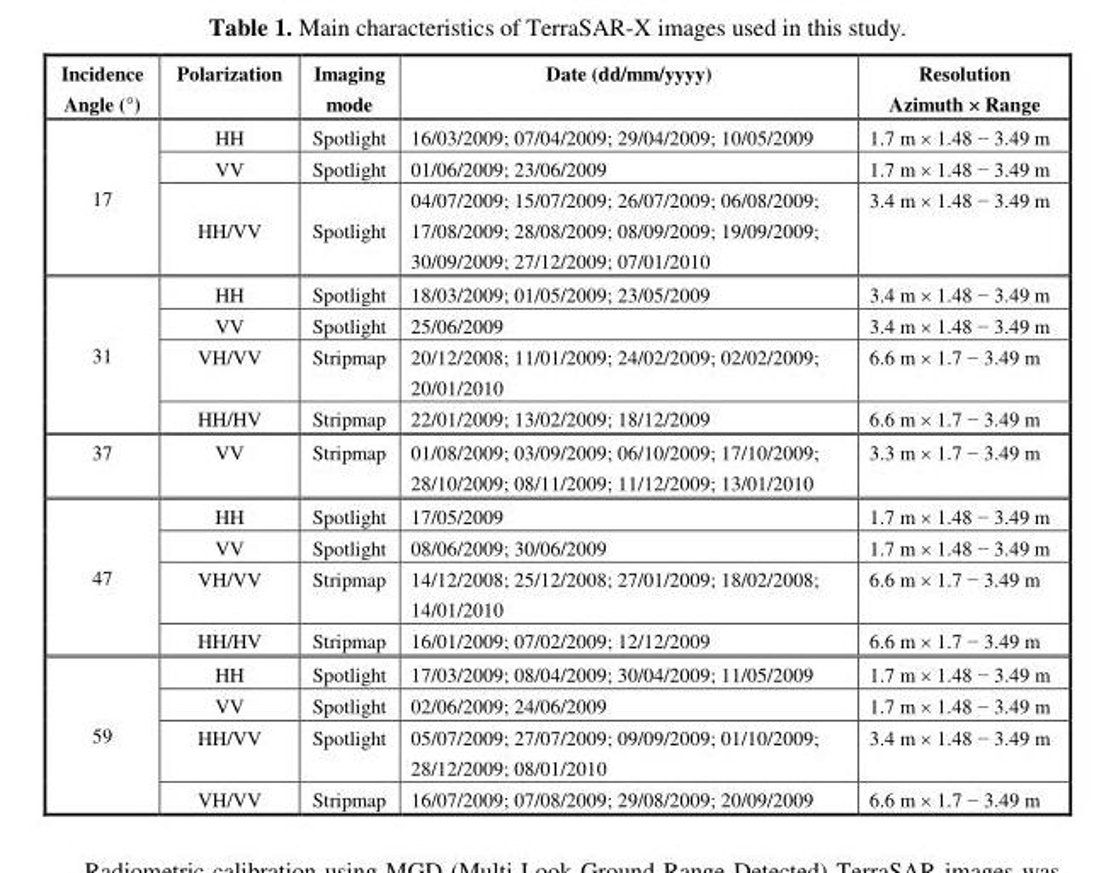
<table><thead><tr><td>Incidence Angle (°)</td><td>Polarization</td><td>Imaging mode</td><td>Date (dd/mm/yyyy)</td><td>Resolution Azimuth × Range</td></tr></thead><tbody><tr><td rowspan="3">17</td><td>HH</td><td>Spotlight</td><td>16/03/2009; 07/04/2009; 29/04/2009; 10/05/2009</td><td>1.7 m × 1.48 − 3.49 m</td></tr><tr><td>VV</td><td>Spotlight</td><td>01/06/2009; 23/06/2009</td><td>1.7 m × 1.48 − 3.49 m</td></tr><tr><td>HH/VV</td><td>Spotlight</td><td>04/07/2009; 15/07/2009; 26/07/2009; 06/08/2009; 17/08/2009; 28/08/2009; 08/09/2009; 19/09/2009; 30/09/2009; 27/12/2009; 07/01/2010</td><td>3.4 m × 1.48 − 3.49 m</td></tr><tr><td rowspan="4">31</td><td>HH</td><td>Spotlight</td><td>18/03/2009; 01/05/2009; 23/05/2009</td><td>3.4 m × 1.48 − 3.49 m</td></tr><tr><td>VV</td><td>Spotlight</td><td>25/06/2009</td><td>3.4 m × 1.48 − 3.49 m</td></tr><tr><td>VH/VV</td><td>Stripmap</td><td>20/12/2008; 11/01/2009; 24/02/2009; 02/02/2009; 20/01/2010</td><td>6.6 m × 1.7 − 3.49 m</td></tr><tr><td>HH/HV</td><td>Stripmap</td><td>22/01/2009; 13/02/2009; 18/12/2009</td><td>6.6 m × 1.7 − 3.49 m</td></tr><tr><td>37</td><td>VV</td><td>Stripmap</td><td>01/08/2009; 03/09/2009; 06/10/2009; 17/10/2009; 28/10/2009; 08/11/2009; 11/12/2009; 13/01/2010</td><td>3.3 m × 1.7 − 3.49 m</td></tr><tr><td rowspan="4">47</td><td>HH</td><td>Spotlight</td><td>17/05/2009</td><td>1.7 m × 1.48 − 3.49 m</td></tr><tr><td>VV</td><td>Spotlight</td><td>08/06/2009; 30/06/2009</td><td>1.7 m × 1.48 − 3.49 m</td></tr><tr><td>VH/VV</td><td>Stripmap</td><td>14/12/2008; 25/12/2008; 27/01/2009; 18/02/2008; 14/01/2010</td><td>6.6 m × 1.7 − 3.49 m</td></tr><tr><td>HH/HV</td><td>Stripmap</td><td>16/01/2009; 07/02/2009; 12/12/2009</td><td>6.6 m × 1.7 − 3.49 m</td></tr><tr><td rowspan="4">59</td><td>HH</td><td>Spotlight</td><td>17/03/2009; 08/04/2009; 30/04/2009; 11/05/2009</td><td>1.7 m × 1.48 − 3.49 m</td></tr><tr><td>VV</td><td>Spotlight</td><td>02/06/2009; 24/06/2009</td><td>1.7 m × 1.48 − 3.49 m</td></tr><tr><td>HH/VV</td><td>Spotlight</td><td>05/07/2009; 27/07/2009; 09/09/2009; 01/10/2009; 28/12/2009; 08/01/2010</td><td>3.4 m × 1.48 − 3.49 m</td></tr><tr><td>VH/VV</td><td>Stripmap</td><td>16/07/2009; 07/08/2009; 29/08/2009; 20/09/2009</td><td>6.6 m × 1.7 − 3.49 m</td></tr></tbody></table>